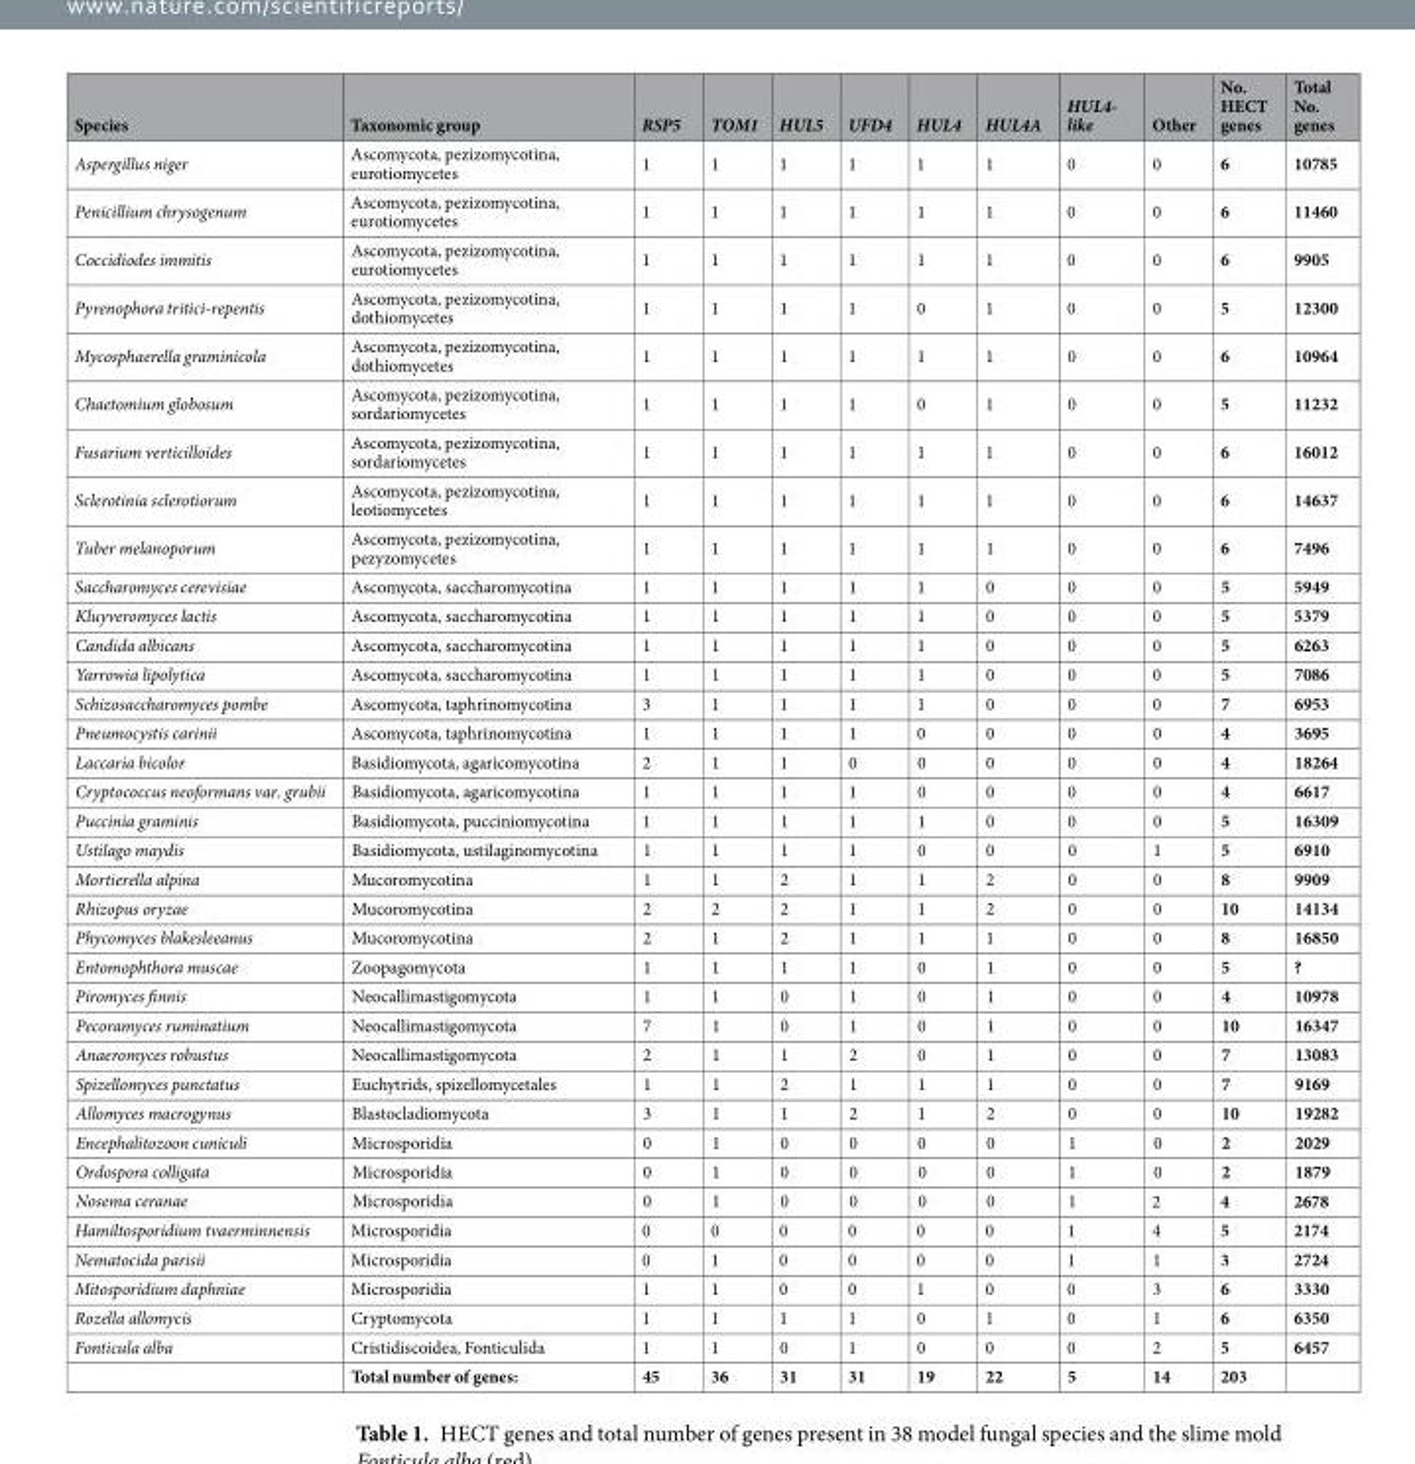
<table><thead><tr><td>Species</td><td>Taxonomic group</td><td>RSP5</td><td>TOM1</td><td>HUL5</td><td>UFD4</td><td>HUL4</td><td>HUL4A</td><td>HUL4- like</td><td>Other</td><td>No. HECT genes</td><td>Total No. genes</td></tr></thead><tbody><tr><td>Aspergillus niger</td><td>Ascomycota, pezizomycotina, eurotiomycetes</td><td>1</td><td>1</td><td>1</td><td>1</td><td>1</td><td>1</td><td>0</td><td>0</td><td>6</td><td>10785</td></tr><tr><td>Penicillium chrysogenum</td><td>Ascomycota, pezizomycotina, eurotiomycetes</td><td>1</td><td>1</td><td>1</td><td>1</td><td>1</td><td>1</td><td>0</td><td>0</td><td>6</td><td>11460</td></tr><tr><td>Coccidiodes immitis</td><td>Ascomycota, pezizomycotina, eurotiomycetes</td><td>1</td><td>1</td><td>1</td><td>1</td><td>1</td><td>1</td><td>0</td><td>0</td><td>6</td><td>9905</td></tr><tr><td>Pyrenophora tritici-repentis</td><td>Ascomycota, pezizomycotina, dothiomycetes</td><td>1</td><td>1</td><td>1</td><td>1</td><td>0</td><td>1</td><td>0</td><td>0</td><td>5</td><td>12300</td></tr><tr><td>Mycosphaerella graminicola</td><td>Ascomycota, pezizomycotina, dothiomycetes</td><td>1</td><td>1</td><td>1</td><td>1</td><td>1</td><td>1</td><td>0</td><td>0</td><td>6</td><td>10964</td></tr><tr><td>Chaetomium globosum</td><td>Ascomycota, pezizomycotina, sordariomycetes</td><td>1</td><td>1</td><td>1</td><td>1</td><td>0</td><td>1</td><td>0</td><td>0</td><td>5</td><td>11232</td></tr><tr><td>Fusarium verticilloides</td><td>Ascomycota, pezizomycotina, sordariomycetes</td><td>1</td><td>1</td><td>1</td><td>1</td><td>1</td><td>1</td><td>0</td><td>0</td><td>6</td><td>16012</td></tr><tr><td>Sclerotinia sclerotiorum</td><td>Ascomycota, pezizomycotina, leotiomycetes</td><td>1</td><td>1</td><td>1</td><td>1</td><td>1</td><td>1</td><td>0</td><td>0</td><td>6</td><td>14637</td></tr><tr><td>Tuber melanoporum</td><td>Ascomycota, pezizomycotina, pezyzomycetes</td><td>1</td><td>1</td><td>1</td><td>1</td><td>1</td><td>1</td><td>0</td><td>0</td><td>6</td><td>7496</td></tr><tr><td>Saccharomyces cerevisiae</td><td>Ascomycota, saccharomycotina</td><td>1</td><td>1</td><td>1</td><td>1</td><td>1</td><td>0</td><td>0</td><td>0</td><td>5</td><td>5949</td></tr><tr><td>Kluyveromyces lactis</td><td>Ascomycota, saccharomycotina</td><td>1</td><td>1</td><td>1</td><td>1</td><td>1</td><td>0</td><td>0</td><td>0</td><td>5</td><td>5379</td></tr><tr><td>Candida albicans</td><td>Ascomycota, saccharomycotina</td><td>1</td><td>1</td><td>1</td><td>1</td><td>1</td><td>0</td><td>0</td><td>0</td><td>5</td><td>6263</td></tr><tr><td>Yarrowia lipolytica</td><td>Ascomycota, saccharomycotina</td><td>1</td><td>1</td><td>1</td><td>1</td><td>1</td><td>0</td><td>0</td><td>0</td><td>5</td><td>7086</td></tr><tr><td>Schizosaccharomyces pombe</td><td>Ascomycota, taphrinomycotina</td><td>3</td><td>1</td><td>1</td><td>1</td><td>1</td><td>0</td><td>0</td><td>0</td><td>7</td><td>6953</td></tr><tr><td>Pneumocystis carinii</td><td>Ascomycota, taphrinomycotina</td><td>1</td><td>1</td><td>1</td><td>1</td><td>0</td><td>0</td><td>0</td><td>0</td><td>4</td><td>3695</td></tr><tr><td>Laccaria bicolor</td><td>Basidiomycota, agaricomycotina</td><td>2</td><td>1</td><td>1</td><td>0</td><td>0</td><td>0</td><td>0</td><td>0</td><td>4</td><td>18264</td></tr><tr><td>Cryptococcus neoformans var. grubii</td><td>Basidiomycota, agaricomycotina</td><td>1</td><td>1</td><td>1</td><td>1</td><td>0</td><td>0</td><td>0</td><td>0</td><td>4</td><td>6617</td></tr><tr><td>Puccinia graminis</td><td>Basidiomycota, pucciniomycotina</td><td>1</td><td>1</td><td>1</td><td>1</td><td>1</td><td>0</td><td>0</td><td>0</td><td>5</td><td>16309</td></tr><tr><td>Ustilago maydis</td><td>Basidiomycota, ustilaginomycotina</td><td>1</td><td>1</td><td>1</td><td>1</td><td>0</td><td>0</td><td>0</td><td>1</td><td>5</td><td>6910</td></tr><tr><td>Mortierella alpina</td><td>Mucoromycotina</td><td>1</td><td>1</td><td>2</td><td>1</td><td>1</td><td>2</td><td>0</td><td>0</td><td>8</td><td>9909</td></tr><tr><td>Rhizopus oryzae</td><td>Mucoromycotina</td><td>2</td><td>2</td><td>2</td><td>1</td><td>1</td><td>2</td><td>0</td><td>0</td><td>10</td><td>14134</td></tr><tr><td>Phycomyces blakesleeanus</td><td>Mucoromycotina</td><td>2</td><td>1</td><td>2</td><td>1</td><td>1</td><td>1</td><td>0</td><td>0</td><td>8</td><td>16850</td></tr><tr><td>Entomophthora muscae</td><td>Zoopagomycota</td><td>1</td><td>1</td><td>1</td><td>1</td><td>0</td><td>1</td><td>0</td><td>0</td><td>5</td><td>?</td></tr><tr><td>Piromyces finnis</td><td>Neocallimastigomycota</td><td>1</td><td>1</td><td>0</td><td>1</td><td>0</td><td>1</td><td>0</td><td>0</td><td>4</td><td>10978</td></tr><tr><td>Pecoramyces ruminatium</td><td>Neocallimastigomycota</td><td>7</td><td>1</td><td>0</td><td>1</td><td>0</td><td>1</td><td>0</td><td>0</td><td>10</td><td>16347</td></tr><tr><td>Anaeromyces robustus</td><td>Neocallimastigomycota</td><td>2</td><td>1</td><td>1</td><td>2</td><td>0</td><td>1</td><td>0</td><td>0</td><td>7</td><td>13083</td></tr><tr><td>Spizellomyces punctatus</td><td>Euchytrids, spizellomycetales</td><td>1</td><td>1</td><td>2</td><td>1</td><td>1</td><td>1</td><td>0</td><td>0</td><td>7</td><td>9169</td></tr><tr><td>Allomyces macrogynus</td><td>Blastocladiomycota</td><td>3</td><td>1</td><td>1</td><td>2</td><td>1</td><td>2</td><td>0</td><td>0</td><td>10</td><td>19282</td></tr><tr><td>Encephalitozoon cuniculi</td><td>Microsporidia</td><td>0</td><td>1</td><td>0</td><td>0</td><td>0</td><td>0</td><td>1</td><td>0</td><td>2</td><td>2029</td></tr><tr><td>Ordospora colligata</td><td>Microsporidia</td><td>0</td><td>1</td><td>0</td><td>0</td><td>0</td><td>0</td><td>1</td><td>0</td><td>2</td><td>1879</td></tr><tr><td>Nosema ceranae</td><td>Microsporidia</td><td>0</td><td>1</td><td>0</td><td>0</td><td>0</td><td>0</td><td>1</td><td>2</td><td>4</td><td>2678</td></tr><tr><td>Hamiltosporidium tvaerminnensis</td><td>Microsporidia</td><td>0</td><td>0</td><td>0</td><td>0</td><td>0</td><td>0</td><td>1</td><td>4</td><td>5</td><td>2174</td></tr><tr><td>Nematocida parisii</td><td>Microsporidia</td><td>0</td><td>1</td><td>0</td><td>0</td><td>0</td><td>0</td><td>1</td><td>1</td><td>3</td><td>2724</td></tr><tr><td>Mitosporidium daphniae</td><td>Microsporidia</td><td>1</td><td>1</td><td>0</td><td>0</td><td>1</td><td>0</td><td>0</td><td>3</td><td>6</td><td>3330</td></tr><tr><td>Rozella allomycis</td><td>Cryptomycota</td><td>1</td><td>1</td><td>1</td><td>1</td><td>0</td><td>1</td><td>0</td><td>1</td><td>6</td><td>6350</td></tr><tr><td rowspan="2">Fonticula alba</td><td>Cristidiscoidea, Fonticulida</td><td>1</td><td>1</td><td>0</td><td>1</td><td>0</td><td>0</td><td>0</td><td>2</td><td>5</td><td>6457</td></tr><tr><td>Total number of genes:</td><td>45</td><td>36</td><td>31</td><td>31</td><td>19</td><td>22</td><td>5</td><td>14</td><td>203</td><td></td></tr></tbody></table>